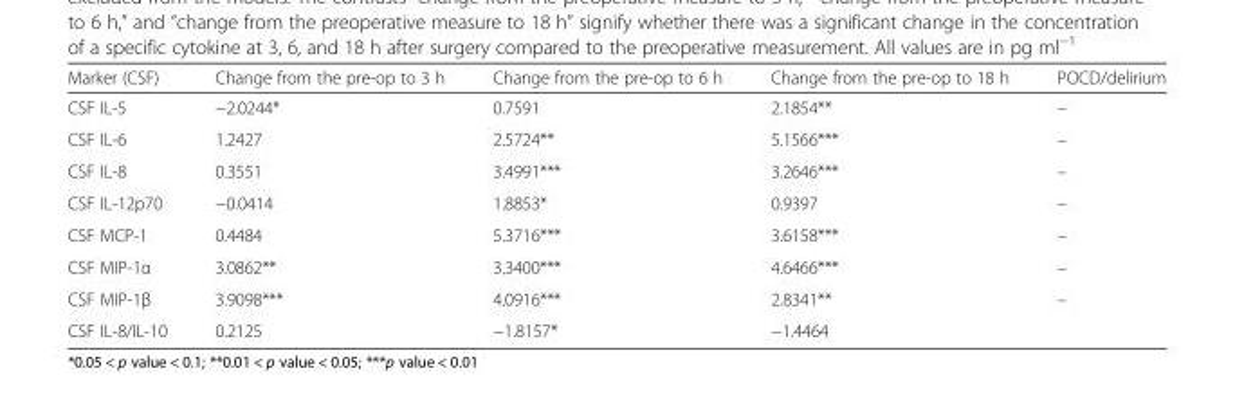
<table><thead><tr><td>Marker (CSF)</td><td>Change from the pre-op to 3 h</td><td>Change from the pre-op to 6 h</td><td>Change from the pre-op to 18 h</td><td>POCD/delirium</td></tr></thead><tbody><tr><td>CSF IL-5</td><td>−2.0244*</td><td>0.7591</td><td>2.1854**</td><td>–</td></tr><tr><td>CSF IL-6</td><td>1.2427</td><td>2.5724**</td><td>5.1566***</td><td>–</td></tr><tr><td>CSF IL-8</td><td>0.3551</td><td>3.4991***</td><td>3.2646***</td><td>–</td></tr><tr><td>CSF IL-12p70</td><td>−0.0414</td><td>1.8853*</td><td>0.9397</td><td>–</td></tr><tr><td>CSF MCP-1</td><td>0.4484</td><td>5.3716***</td><td>3.6158***</td><td>–</td></tr><tr><td>CSF MIP-1α</td><td>3.0862**</td><td>3.3400***</td><td>4.6466***</td><td>–</td></tr><tr><td>CSF MIP-1β</td><td>3.9098***</td><td>4.0916***</td><td>2.8341**</td><td>–</td></tr><tr><td>CSF IL-8/IL-10</td><td>0.2125</td><td>−1.8157*</td><td>−1.4464</td><td></td></tr></tbody></table>